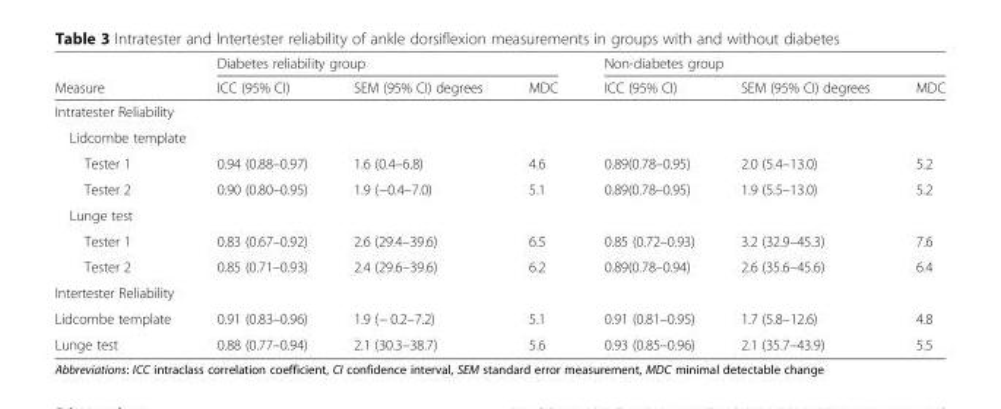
<table><thead><tr><td rowspan="2">Measure</td><td colspan="3">Diabetes reliability group</td><td colspan="3">Non-diabetes group</td></tr><tr><td>ICC (95% CI)</td><td>SEM (95% CI) degrees</td><td>MDC</td><td>ICC (95% CI)</td><td>SEM (95% CI) degrees</td><td>MDC</td></tr></thead><tbody><tr><td colspan="7">Intratester Reliability</td></tr><tr><td colspan="7">Lidcombe template</td></tr><tr><td>Tester 1</td><td>0.94 (0.88–0.97)</td><td>1.6 (0.4–6.8)</td><td>4.6</td><td>0.89(0.78–0.95)</td><td>2.0 (5.4–13.0)</td><td>5.2</td></tr><tr><td>Tester 2</td><td>0.90 (0.80–0.95)</td><td>1.9 (−0.4–7.0)</td><td>5.1</td><td>0.89(0.78–0.95)</td><td>1.9 (5.5–13.0)</td><td>5.2</td></tr><tr><td colspan="7">Lunge test</td></tr><tr><td>Tester 1</td><td>0.83 (0.67–0.92)</td><td>2.6 (29.4–39.6)</td><td>6.5</td><td>0.85 (0.72–0.93)</td><td>3.2 (32.9–45.3)</td><td>7.6</td></tr><tr><td>Tester 2</td><td>0.85 (0.71–0.93)</td><td>2.4 (29.6–39.6)</td><td>6.2</td><td>0.89(0.78–0.94)</td><td>2.6 (35.6–45.6)</td><td>6.4</td></tr><tr><td colspan="7">Intertester Reliability</td></tr><tr><td>Lidcombe template</td><td>0.91 (0.83–0.96)</td><td>1.9 (− 0.2–7.2)</td><td>5.1</td><td>0.91 (0.81–0.95)</td><td>1.7 (5.8–12.6)</td><td>4.8</td></tr><tr><td>Lunge test</td><td>0.88 (0.77–0.94)</td><td>2.1 (30.3–38.7)</td><td>5.6</td><td>0.93 (0.85–0.96)</td><td>2.1 (35.7–43.9)</td><td>5.5</td></tr></tbody></table>